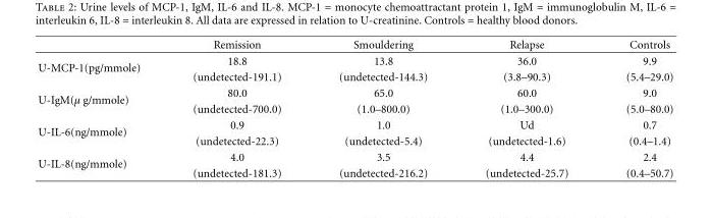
<table><thead><tr><td></td><td>Remission</td><td>Smouldering</td><td>Relapse</td><td>Controls</td></tr></thead><tbody><tr><td rowspan="2">U-MCP-1(pg/mmole)</td><td>18.8</td><td>13.8</td><td>36.0</td><td>9.9</td></tr><tr><td>(undetected-191.1)</td><td>(undetected-144.3)</td><td>(3.8–90.3)</td><td>(5.4–29.0)</td></tr><tr><td rowspan="2">U-IgM(μ g/mmole)</td><td>80.0</td><td>65.0</td><td>60.0</td><td>9.0</td></tr><tr><td>(undetected-700.0)</td><td>(1.0–800.0)</td><td>(1.0–300.0)</td><td>(5.0–80.0)</td></tr><tr><td rowspan="2">U-IL-6(ng/mmole)</td><td>0.9</td><td>1.0</td><td>Ud</td><td>0.7</td></tr><tr><td>(undetected-22.3)</td><td>(undetected-5.4)</td><td>(undetected-1.6)</td><td>(0.4–1.4)</td></tr><tr><td rowspan="2">U-IL-8(ng/mmole)</td><td>4.0</td><td>3.5</td><td>4.4</td><td>2.4</td></tr><tr><td>(undetected-181.3)</td><td>(undetected-216.2)</td><td>(undetected-25.7)</td><td>(0.4–50.7)</td></tr></tbody></table>